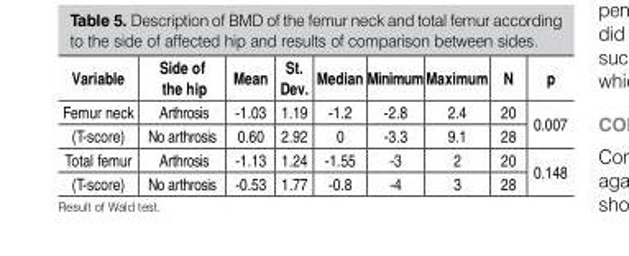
<table><thead><tr><td>Variable</td><td>Side of the hip</td><td>Mean</td><td>St. Dev.</td><td>Median</td><td>Minimum</td><td>Maximum</td><td>N</td><td>p</td></tr></thead><tbody><tr><td>Femur neck</td><td>Arthrosis</td><td>-1.03</td><td>1.19</td><td>-1.2</td><td>-2.8</td><td>2.4</td><td>20</td><td rowspan="2">0.007</td></tr><tr><td>(T-score)</td><td>No arthrosis</td><td>0.60</td><td>2.92</td><td>0</td><td>-3.3</td><td>9.1</td><td>28</td></tr><tr><td>Total femur</td><td>Arthrosis</td><td>-1.13</td><td>1.24</td><td>-1.55</td><td>-3</td><td>2</td><td>20</td><td rowspan="2">0.148</td></tr><tr><td>(T-score)</td><td>No arthrosis</td><td>-0.53</td><td>1.77</td><td>-0.8</td><td>-4</td><td>3</td><td>28</td></tr></tbody></table>